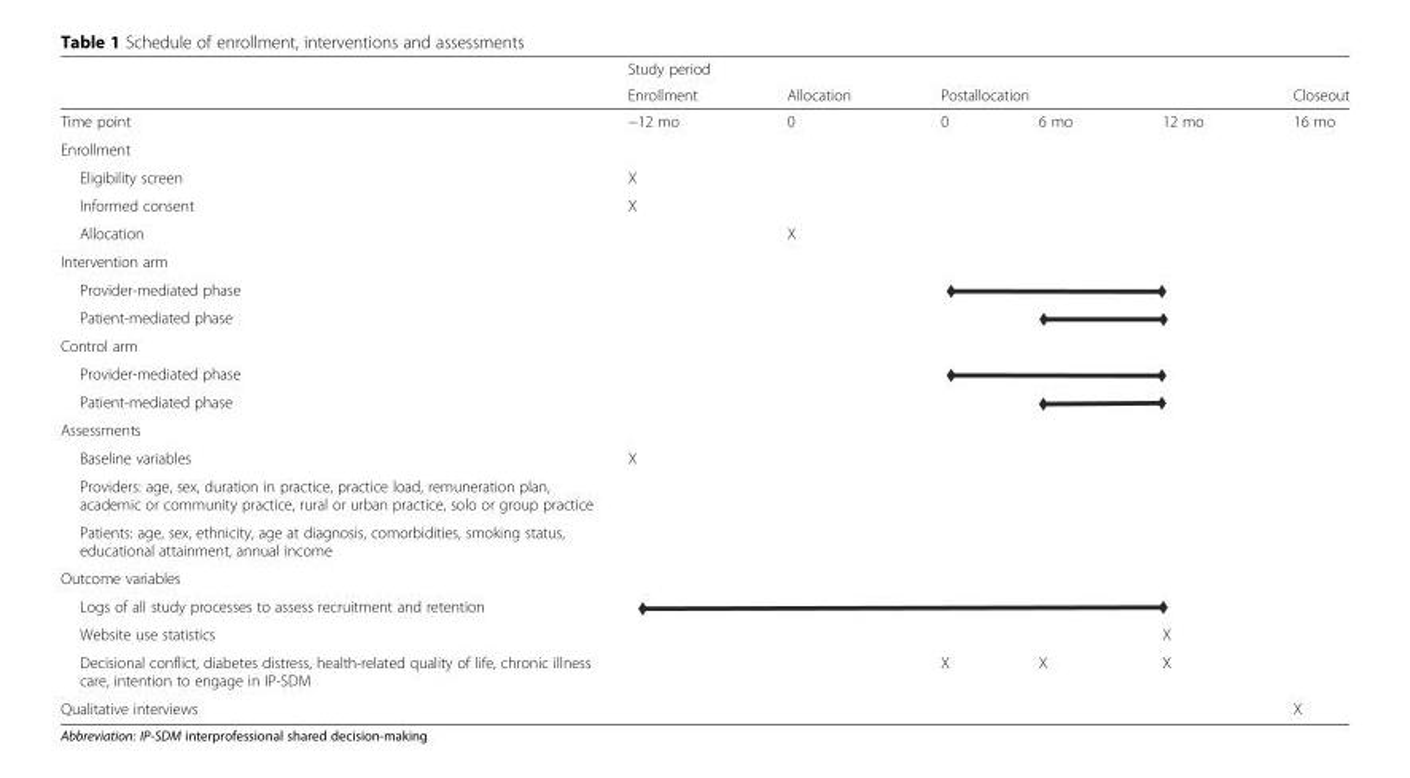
<table><thead><tr><td rowspan="3">Time point</td><td colspan="6">Study period</td></tr><tr><td rowspan="2">Enrollment −12 mo</td><td rowspan="2">Allocation 0</td><td colspan="3">Postallocation</td><td rowspan="2">Closeout 16 mo</td></tr><tr><td>0</td><td>6 mo</td><td>12 mo</td></tr></thead><tbody><tr><td colspan="7">Enrollment</td></tr><tr><td>Eligibility screen</td><td>X</td><td></td><td></td><td></td><td></td><td></td></tr><tr><td>Informed consent</td><td>X</td><td></td><td></td><td></td><td></td><td></td></tr><tr><td>Allocation</td><td></td><td>X</td><td></td><td></td><td></td><td></td></tr><tr><td colspan="7">Intervention arm</td></tr><tr><td colspan="7">Provider-mediated phase</td></tr><tr><td colspan="7">Patient-mediated phase</td></tr><tr><td colspan="7">Control arm</td></tr><tr><td colspan="7">Provider-mediated phase</td></tr><tr><td colspan="7">Patient-mediated phase</td></tr><tr><td colspan="7">Assessments</td></tr><tr><td>Baseline variables</td><td rowspan="3">X</td><td rowspan="3"></td><td rowspan="3"></td><td rowspan="3"></td><td rowspan="3"></td><td rowspan="3"></td></tr><tr><td>Providers: age, sex, duration in practice, practice load, remuneration plan, academic or community practice, rural or urban practice, solo or group practice</td></tr><tr><td>Patients: age, sex, ethnicity, age at diagnosis, comorbidities, smoking status, educational attainment, annual income</td></tr><tr><td colspan="7">Outcome variables</td></tr><tr><td colspan="7">Logs of all study processes to assess recruitment and retention</td></tr><tr><td>Website use statistics</td><td></td><td></td><td></td><td></td><td>X</td><td></td></tr><tr><td>Decisional conflict, diabetes distress, health-related quality of life, chronic illness care, intention to engage in IP-SDM</td><td></td><td></td><td>X</td><td>X</td><td>X</td><td></td></tr><tr><td>Qualitative interviews</td><td></td><td></td><td></td><td></td><td></td><td>X</td></tr></tbody></table>